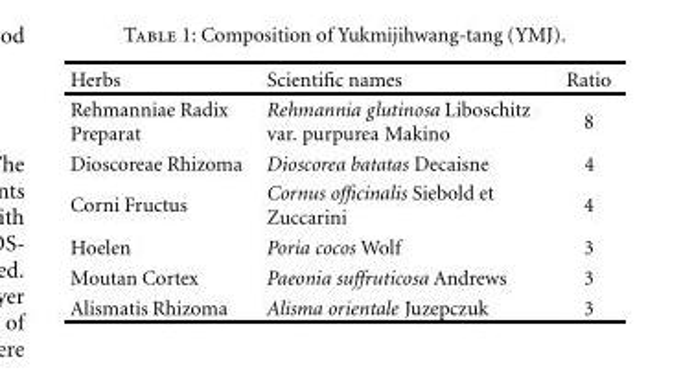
<table><thead><tr><td>Herbs</td><td>Scientific names</td><td>Ratio</td></tr></thead><tbody><tr><td>Rehmanniae Radix Preparat</td><td>Rehmannia glutinosa Liboschitz var. purpurea Makino</td><td>8</td></tr><tr><td>Dioscoreae Rhizoma</td><td>Dioscorea batatas Decaisne</td><td>4</td></tr><tr><td>Corni Fructus</td><td>Cornus officinalis Siebold et Zuccarini</td><td>4</td></tr><tr><td>Hoelen</td><td>Poria cocos Wolf</td><td>3</td></tr><tr><td>Moutan Cortex</td><td>Paeonia suffruticosa Andrews</td><td>3</td></tr><tr><td>Alismatis Rhizoma</td><td>Alisma orientale Juzepczuk</td><td>3</td></tr></tbody></table>